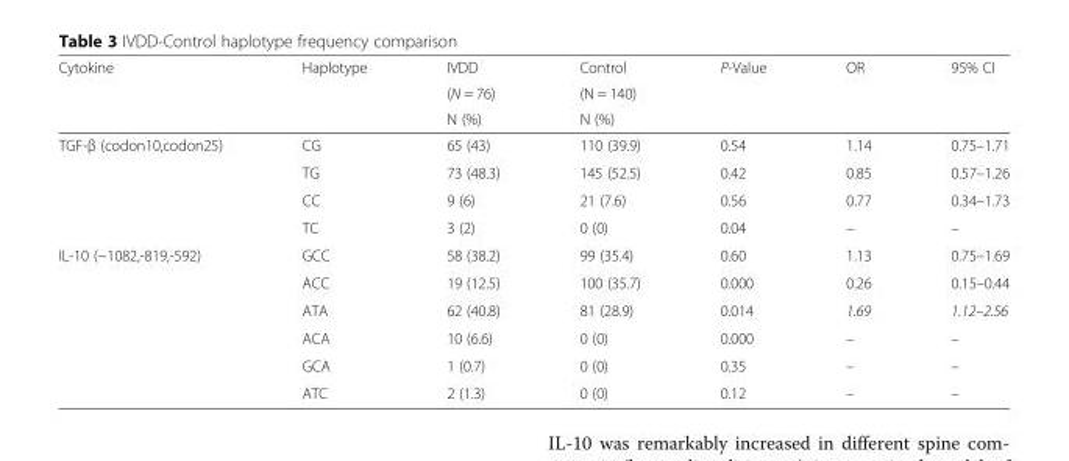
<table><thead><tr><td rowspan="3">Cytokine</td><td rowspan="3">Haplotype</td><td rowspan="3">IVDD (N = 76) N (%)</td><td rowspan="3">Control (N = 140) N (%)</td><td rowspan="3">P-Value</td><td rowspan="3">OR</td><td rowspan="3">95% CI</td></tr><tr></tr><tr></tr></thead><tbody><tr><td rowspan="4">TGF-β (codon10,codon25)</td><td>CG</td><td>65 (43)</td><td>110 (39.9)</td><td>0.54</td><td>1.14</td><td>0.75–1.71</td></tr><tr><td>TG</td><td>73 (48.3)</td><td>145 (52.5)</td><td>0.42</td><td>0.85</td><td>0.57–1.26</td></tr><tr><td>CC</td><td>9 (6)</td><td>21 (7.6)</td><td>0.56</td><td>0.77</td><td>0.34–1.73</td></tr><tr><td>TC</td><td>3 (2)</td><td>0 (0)</td><td>0.04</td><td>–</td><td>–</td></tr><tr><td rowspan="6">IL-10 (−1082,-819,-592)</td><td>GCC</td><td>58 (38.2)</td><td>99 (35.4)</td><td>0.60</td><td>1.13</td><td>0.75–1.69</td></tr><tr><td>ACC</td><td>19 (12.5)</td><td>100 (35.7)</td><td>0.000</td><td>0.26</td><td>0.15–0.44</td></tr><tr><td>ATA</td><td>62 (40.8)</td><td>81 (28.9)</td><td>0.014</td><td>1.69</td><td>1.12–2.56</td></tr><tr><td>ACA</td><td>10 (6.6)</td><td>0 (0)</td><td>0.000</td><td>–</td><td>–</td></tr><tr><td>GCA</td><td>1 (0.7)</td><td>0 (0)</td><td>0.35</td><td>–</td><td>–</td></tr><tr><td>ATC</td><td>2 (1.3)</td><td>0 (0)</td><td>0.12</td><td>–</td><td>–</td></tr></tbody></table>